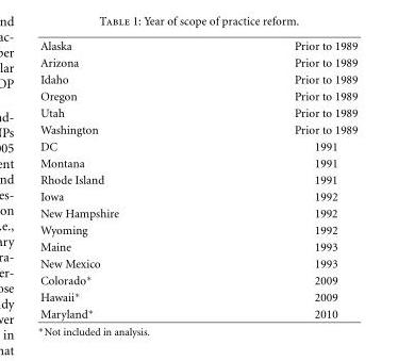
<table><tbody><tr><td>Alaska</td><td>Prior to 1989</td></tr><tr><td>Arizona</td><td>Prior to 1989</td></tr><tr><td>Idaho</td><td>Prior to 1989</td></tr><tr><td>Oregon</td><td>Prior to 1989</td></tr><tr><td>Utah</td><td>Prior to 1989</td></tr><tr><td>Washington</td><td>Prior to 1989</td></tr><tr><td>DC</td><td>1991</td></tr><tr><td>Montana</td><td>1991</td></tr><tr><td>Rhode Island</td><td>1991</td></tr><tr><td>Iowa</td><td>1992</td></tr><tr><td>New Hampshire</td><td>1992</td></tr><tr><td>Wyoming</td><td>1992</td></tr><tr><td>Maine</td><td>1993</td></tr><tr><td>New Mexico</td><td>1993</td></tr><tr><td>Colorado∗</td><td>2009</td></tr><tr><td>Hawaii∗</td><td>2009</td></tr><tr><td>Maryland∗</td><td>2010</td></tr></tbody></table>